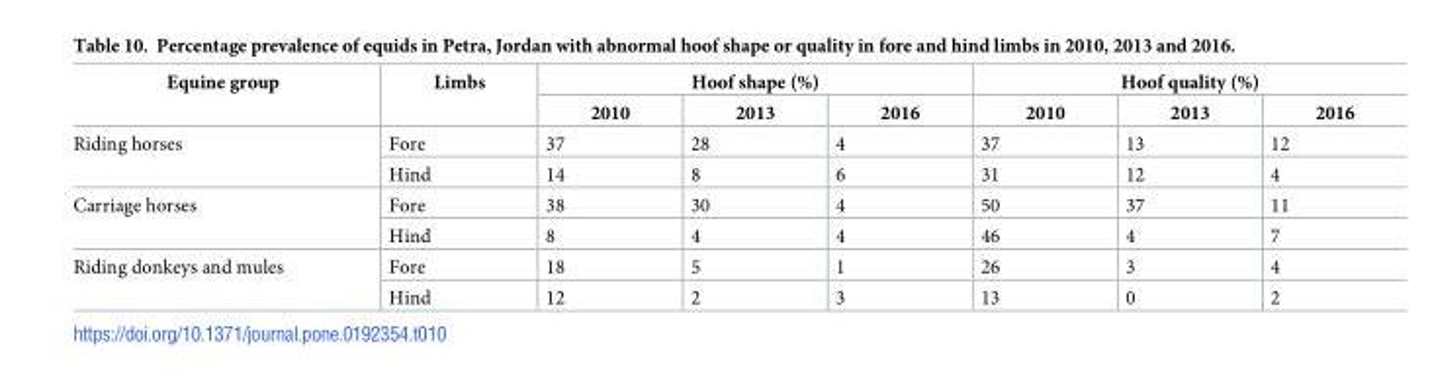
<table><thead><tr><td rowspan="2">Equine group</td><td rowspan="2">Limbs</td><td colspan="3">Hoof shape (%)</td><td colspan="3">Hoof quality (%)</td></tr><tr><td>2010</td><td>2013</td><td>2016</td><td>2010</td><td>2013</td><td>2016</td></tr></thead><tbody><tr><td rowspan="2">Riding horses</td><td>Fore</td><td>37</td><td>28</td><td>4</td><td>37</td><td>13</td><td>12</td></tr><tr><td>Hind</td><td>14</td><td>8</td><td>6</td><td>31</td><td>12</td><td>4</td></tr><tr><td rowspan="2">Carriage horses</td><td>Fore</td><td>38</td><td>30</td><td>4</td><td>50</td><td>37</td><td>11</td></tr><tr><td>Hind</td><td>8</td><td>4</td><td>4</td><td>46</td><td>4</td><td>7</td></tr><tr><td rowspan="2">Riding donkeys and mules</td><td>Fore</td><td>18</td><td>5</td><td>1</td><td>26</td><td>3</td><td>4</td></tr><tr><td>Hind</td><td>12</td><td>2</td><td>3</td><td>13</td><td>0</td><td>2</td></tr></tbody></table>